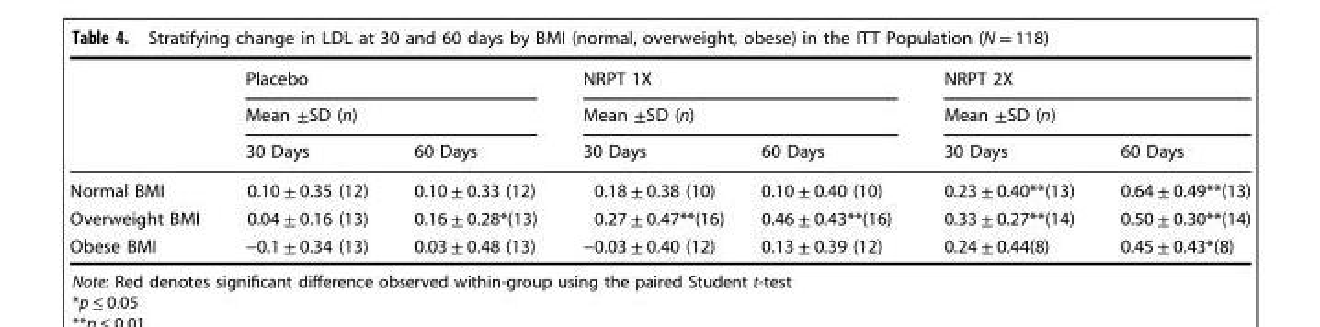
<table><thead><tr><td rowspan="3"></td><td rowspan="2" colspan="2">Placebo Mean ±SD (n)</td><td rowspan="2" colspan="2">NRPT 1X Mean ±SD (n)</td><td rowspan="2" colspan="2">NRPT 2X Mean ±SD (n)</td></tr><tr></tr><tr><td>30 Days</td><td>60 Days</td><td>30 Days</td><td>60 Days</td><td>30 Days</td><td>60 Days</td></tr></thead><tbody><tr><td>Normal BMI</td><td>0.10 ± 0.35 (12)</td><td>0.10 ± 0.33 (12)</td><td>0.18 ± 0.38 (10)</td><td>0.10 ± 0.40 (10)</td><td>0.23 ± 0.40**(13)</td><td>0.64 ± 0.49**(13)</td></tr><tr><td>Overweight BMI</td><td>0.04 ± 0.16 (13)</td><td>0.16 ± 0.28*(13)</td><td>0.27 ± 0.47**(16)</td><td>0.46 ± 0.43**(16)</td><td>0.33 ± 0.27**(14)</td><td>0.50 ± 0.30**(14)</td></tr><tr><td>Obese BMI</td><td>−0.1 ± 0.34 (13)</td><td>0.03 ± 0.48 (13)</td><td>−0.03 ± 0.40 (12)</td><td>0.13 ± 0.39 (12)</td><td>0.24 ± 0.44(8)</td><td>0.45 ± 0.43*(8)</td></tr></tbody></table>